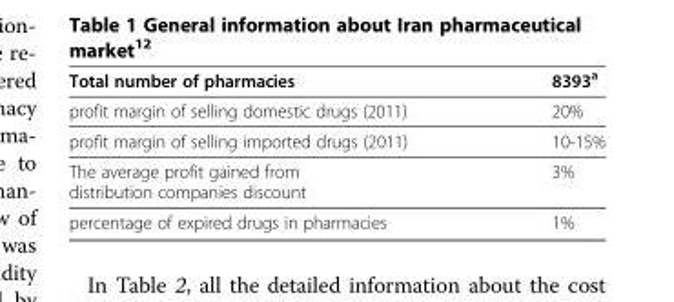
<table><thead><tr><td>Total number of pharmacies</td><td>8393<sup>a</sup></td></tr></thead><tbody><tr><td>profit margin of selling domestic drugs (2011)</td><td>20%</td></tr><tr><td>profit margin of selling imported drugs (2011)</td><td>10-15%</td></tr><tr><td>The average profit gained from distribution companies discount</td><td>3%</td></tr><tr><td>percentage of expired drugs in pharmacies</td><td>1%</td></tr></tbody></table>